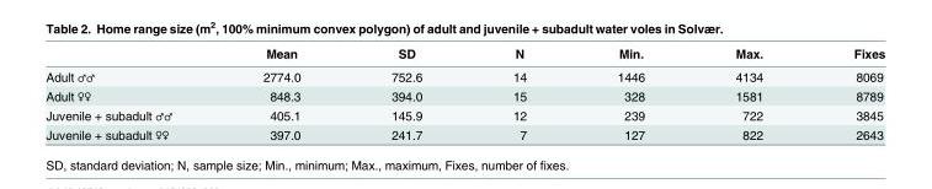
<table><thead><tr><td></td><td>Mean</td><td>SD</td><td>N</td><td>Min.</td><td>Max.</td><td>Fixes</td></tr></thead><tbody><tr><td>Adult ♂♂</td><td>2774.0</td><td>752.6</td><td>14</td><td>1446</td><td>4134</td><td>8069</td></tr><tr><td>Adult ♀♀</td><td>848.3</td><td>394.0</td><td>15</td><td>328</td><td>1581</td><td>8789</td></tr><tr><td>Juvenile + subadult ♂♂</td><td>405.1</td><td>145.9</td><td>12</td><td>239</td><td>722</td><td>3845</td></tr><tr><td>Juvenile + subadult ♀♀</td><td>397.0</td><td>241.7</td><td>7</td><td>127</td><td>822</td><td>2643</td></tr></tbody></table>